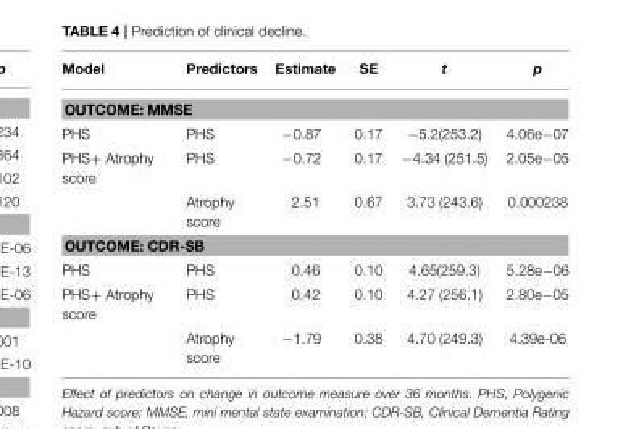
<table><thead><tr><td>Model</td><td>Predictors</td><td>Estimate</td><td>SE</td><td>t</td><td>p</td></tr></thead><tbody><tr><td colspan="6">OUTCOME: MMSE</td></tr><tr><td>PHS</td><td>PHS</td><td>−0.87</td><td>0.17</td><td>−5.2(253.2)</td><td>4.06e−07</td></tr><tr><td rowspan="2">PHS+ Atrophy score</td><td>PHS</td><td>−0.72</td><td>0.17</td><td>−4.34 (251.5)</td><td>2.05e−05</td></tr><tr><td>Atrophy score</td><td>2.51</td><td>0.67</td><td>3.73 (243.6)</td><td>0.000238</td></tr><tr><td colspan="6">OUTCOME: CDR-SB</td></tr><tr><td>PHS</td><td>PHS</td><td>0.46</td><td>0.10</td><td>4.65(259.3)</td><td>5.28e−06</td></tr><tr><td rowspan="2">PHS+ Atrophy score</td><td>PHS</td><td>0.42</td><td>0.10</td><td>4.27 (256.1)</td><td>2.80e−05</td></tr><tr><td>Atrophy score</td><td>−1.79</td><td>0.38</td><td>4.70 (249.3)</td><td>4.39e-06</td></tr></tbody></table>